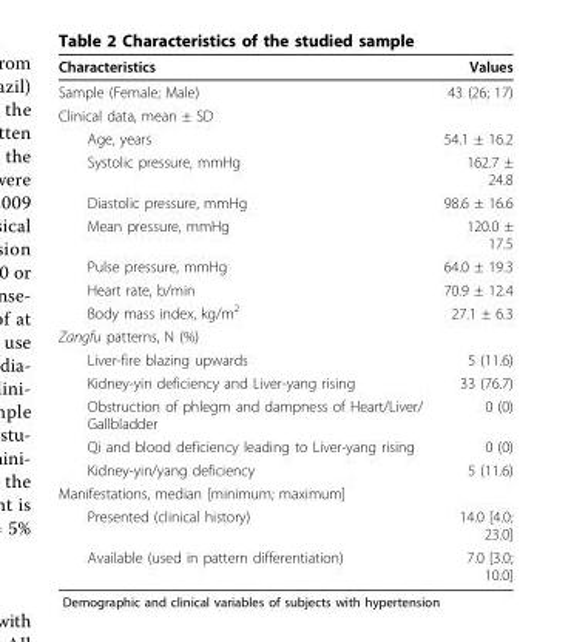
<table><thead><tr><td>Characteristics</td><td>Values</td></tr></thead><tbody><tr><td>Sample (Female; Male)</td><td>43 (26; 17)</td></tr><tr><td colspan="2">Clinical data, mean ± SD</td></tr><tr><td>Age, years</td><td>54.1 ± 16.2</td></tr><tr><td>Systolic pressure, mmHg</td><td>162.7 ± 24.8</td></tr><tr><td>Diastolic pressure, mmHg</td><td>98.6 ± 16.6</td></tr><tr><td>Mean pressure, mmHg</td><td>120.0 ± 17.5</td></tr><tr><td>Pulse pressure, mmHg</td><td>64.0 ± 19.3</td></tr><tr><td>Heart rate, b/min</td><td>70.9 ± 12.4</td></tr><tr><td>Body mass index, kg/m<sup>2</sup></td><td>27.1 ± 6.3</td></tr><tr><td colspan="2">Zangfu patterns, N (%)</td></tr><tr><td>Liver-fire blazing upwards</td><td>5 (11.6)</td></tr><tr><td>Kidney-yin deficiency and Liver-yang rising</td><td>33 (76.7)</td></tr><tr><td>Obstruction of phlegm and dampness of Heart/Liver/ Gallbladder</td><td>0 (0)</td></tr><tr><td>Qi and blood deficiency leading to Liver-yang rising</td><td>0 (0)</td></tr><tr><td>Kidney-yin/yang deficiency</td><td>5 (11.6)</td></tr><tr><td colspan="2">Manifestations, median [minimum; maximum]</td></tr><tr><td>Presented (clinical history)</td><td>14.0 [4.0; 23.0]</td></tr><tr><td>Available (used in pattern differentiation)</td><td>7.0 [3.0; 10.0]</td></tr></tbody></table>